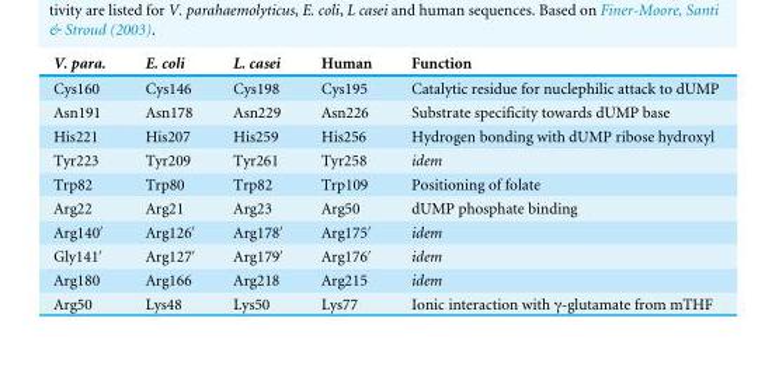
<table><thead><tr><td>V. para.</td><td>E. coli</td><td>L. casei</td><td>Human</td><td>Function</td></tr></thead><tbody><tr><td>Cys160</td><td>Cys146</td><td>Cys198</td><td>Cys195</td><td>Catalytic residue for nuclephilic attack to dUMP</td></tr><tr><td>Asn191</td><td>Asn178</td><td>Asn229</td><td>Asn226</td><td>Substrate specificity towards dUMP base</td></tr><tr><td>His221</td><td>His207</td><td>His259</td><td>His256</td><td>Hydrogen bonding with dUMP ribose hydroxyl</td></tr><tr><td>Tyr223</td><td>Tyr209</td><td>Tyr261</td><td>Tyr258</td><td>idem</td></tr><tr><td>Trp82</td><td>Trp80</td><td>Trp82</td><td>Trp109</td><td>Positioning of folate</td></tr><tr><td>Arg22</td><td>Arg21</td><td>Arg23</td><td>Arg50</td><td>dUMP phosphate binding</td></tr><tr><td>Arg140′</td><td>Arg126′</td><td>Arg178′</td><td>Arg175′</td><td>idem</td></tr><tr><td>Gly141′</td><td>Arg127′</td><td>Arg179′</td><td>Arg176′</td><td>idem</td></tr><tr><td>Arg180</td><td>Arg166</td><td>Arg218</td><td>Arg215</td><td>idem</td></tr><tr><td>Arg50</td><td>Lys48</td><td>Lys50</td><td>Lys77</td><td>Ionic interaction with γ-glutamate from mTHF</td></tr></tbody></table>